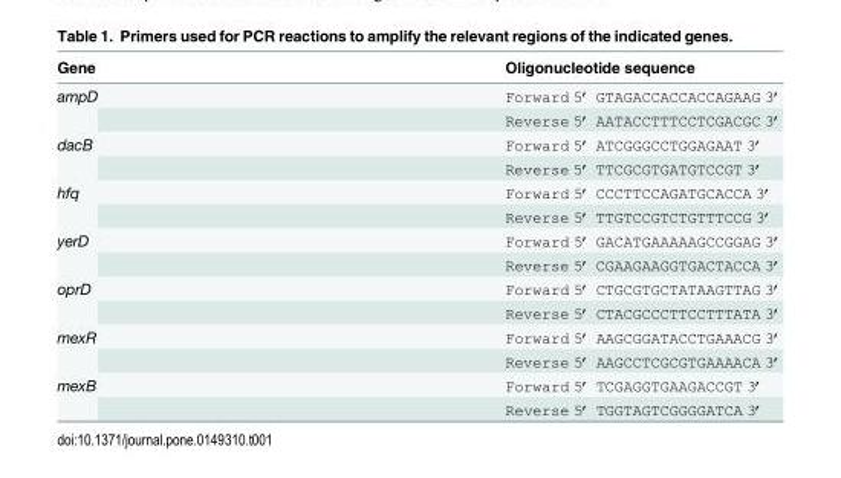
<table><thead><tr><td>Gene</td><td>Oligonucleotide sequence</td></tr></thead><tbody><tr><td rowspan="2">ampD</td><td>Forward 5’ GTAGACCACCACCAGAAG 3’</td></tr><tr><td>Reverse 5’ AATACCTTTCCTCGACGC 3’</td></tr><tr><td rowspan="2">dacB</td><td>Forward 5’ ATCGGGCCTGGAGAAT 3’</td></tr><tr><td>Reverse 5’ TTCGCGTGATGTCCGT 3’</td></tr><tr><td rowspan="2">hfq</td><td>Forward 5’ CCCTTCCAGATGCACCA 3’</td></tr><tr><td>Reverse 5’ TTGTCCGTCTGTTTCCG 3’</td></tr><tr><td rowspan="2">yerD</td><td>Forward 5’ GACATGAAAAAGCCGGAG 3’</td></tr><tr><td>Reverse 5’ CGAAGAAGGTGACTACCA 3’</td></tr><tr><td rowspan="2">oprD</td><td>Forward 5’ CTGCGTGCTATAAGTTAG 3’</td></tr><tr><td>Reverse 5’ CTACGCCCTTCCTTTATA 3’</td></tr><tr><td rowspan="2">mexR</td><td>Forward 5’ AAGCGGATACCTGAAACG 3’</td></tr><tr><td>Reverse 5’ AAGCCTCGCGTGAAAACA 3’</td></tr><tr><td rowspan="2">mexB</td><td>Forward 5’ TCGAGGTGAAGACCGT 3’</td></tr><tr><td>Reverse 5’ TGGTAGTCGGGGATCA 3’</td></tr></tbody></table>